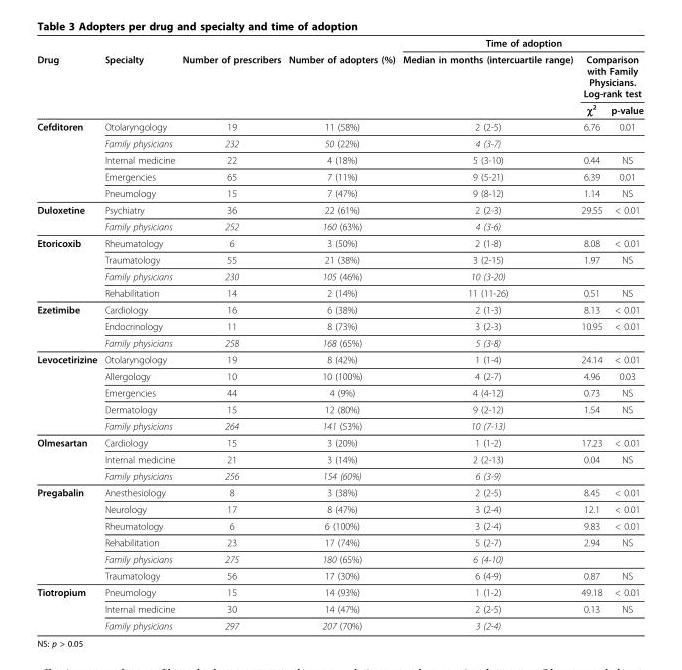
<table><thead><tr><td rowspan="3">Drug</td><td rowspan="3">Specialty</td><td rowspan="3">Number of prescribers</td><td rowspan="3">Number of adopters (%)</td><td colspan="3">Time of adoption</td></tr><tr><td rowspan="2">Median in months (intercuartile range)</td><td colspan="2">Comparison with Family Physicians. Log-rank test</td></tr><tr><td>χ<sup>2</sup></td><td>p-value</td></tr></thead><tbody><tr><td rowspan="5">Cefditoren</td><td>Otolaryngology</td><td>19</td><td>11 (58%)</td><td>2 (2-5)</td><td>6.76</td><td>0.01</td></tr><tr><td>Family physicians</td><td>232</td><td>50 (22%)</td><td>4 (3-7)</td><td></td><td></td></tr><tr><td>Internal medicine</td><td>22</td><td>4 (18%)</td><td>5 (3-10)</td><td>0.44</td><td>NS</td></tr><tr><td>Emergencies</td><td>65</td><td>7 (11%)</td><td>9 (5-21)</td><td>6.39</td><td>0.01</td></tr><tr><td>Pneumology</td><td>15</td><td>7 (47%)</td><td>9 (8-12)</td><td>1.14</td><td>NS</td></tr><tr><td rowspan="2">Duloxetine</td><td>Psychiatry</td><td>36</td><td>22 (61%)</td><td>2 (2-3)</td><td>29.55</td><td>&lt; 0.01</td></tr><tr><td>Family physicians</td><td>252</td><td>160 (63%)</td><td>4 (3-6)</td><td></td><td></td></tr><tr><td rowspan="4">Etoricoxib</td><td>Rheumatology</td><td>6</td><td>3 (50%)</td><td>2 (1-8)</td><td>8.08</td><td>&lt; 0.01</td></tr><tr><td>Traumatology</td><td>55</td><td>21 (38%)</td><td>3 (2-15)</td><td>1.97</td><td>NS</td></tr><tr><td>Family physicians</td><td>230</td><td>105 (46%)</td><td>10 (3-20)</td><td></td><td></td></tr><tr><td>Rehabilitation</td><td>14</td><td>2 (14%)</td><td>11 (11-26)</td><td>0.51</td><td>NS</td></tr><tr><td rowspan="3">Ezetimibe</td><td>Cardiology</td><td>16</td><td>6 (38%)</td><td>2 (1-3)</td><td>8.13</td><td>&lt; 0.01</td></tr><tr><td>Endocrinology</td><td>11</td><td>8 (73%)</td><td>3 (2-3)</td><td>10.95</td><td>&lt; 0.01</td></tr><tr><td>Family physicians</td><td>258</td><td>168 (65%)</td><td>5 (3-8)</td><td></td><td></td></tr><tr><td rowspan="5">Levocetirizine</td><td>Otolaryngology</td><td>19</td><td>8 (42%)</td><td>1 (1-4)</td><td>24.14</td><td>&lt; 0.01</td></tr><tr><td>Allergology</td><td>10</td><td>10 (100%)</td><td>4 (2-7)</td><td>4.96</td><td>0.03</td></tr><tr><td>Emergencies</td><td>44</td><td>4 (9%)</td><td>4 (4-12)</td><td>0.73</td><td>NS</td></tr><tr><td>Dermatology</td><td>15</td><td>12 (80%)</td><td>9 (2-12)</td><td>1.54</td><td>NS</td></tr><tr><td>Family physicians</td><td>264</td><td>141 (53%)</td><td>10 (7-13)</td><td></td><td></td></tr><tr><td rowspan="3">Olmesartan</td><td>Cardiology</td><td>15</td><td>3 (20%)</td><td>1 (1-2)</td><td>17.23</td><td>&lt; 0.01</td></tr><tr><td>Internal medicine</td><td>21</td><td>3 (14%)</td><td>2 (2-13)</td><td>0.04</td><td>NS</td></tr><tr><td>Family physicians</td><td>256</td><td>154 (60%)</td><td>6 (3-9)</td><td></td><td></td></tr><tr><td rowspan="6">Pregabalin</td><td>Anesthesiology</td><td>8</td><td>3 (38%)</td><td>2 (2-5)</td><td>8.45</td><td>&lt; 0.01</td></tr><tr><td>Neurology</td><td>17</td><td>8 (47%)</td><td>3 (2-4)</td><td>12.1</td><td>&lt; 0.01</td></tr><tr><td>Rheumatology</td><td>6</td><td>6 (100%)</td><td>3 (2-4)</td><td>9.83</td><td>&lt; 0.01</td></tr><tr><td>Rehabilitation</td><td>23</td><td>17 (74%)</td><td>5 (2-7)</td><td>2.94</td><td>NS</td></tr><tr><td>Family physicians</td><td>275</td><td>180 (65%)</td><td>6 (4-10)</td><td></td><td></td></tr><tr><td>Traumatology</td><td>56</td><td>17 (30%)</td><td>6 (4-9)</td><td>0.87</td><td>NS</td></tr><tr><td rowspan="3">Tiotropium</td><td>Pneumology</td><td>15</td><td>14 (93%)</td><td>1 (1-2)</td><td>49.18</td><td>&lt; 0.01</td></tr><tr><td>Internal medicine</td><td>30</td><td>14 (47%)</td><td>2 (2-5)</td><td>0.13</td><td>NS</td></tr><tr><td>Family physicians</td><td>297</td><td>207 (70%)</td><td>3 (2-4)</td><td></td><td></td></tr></tbody></table>